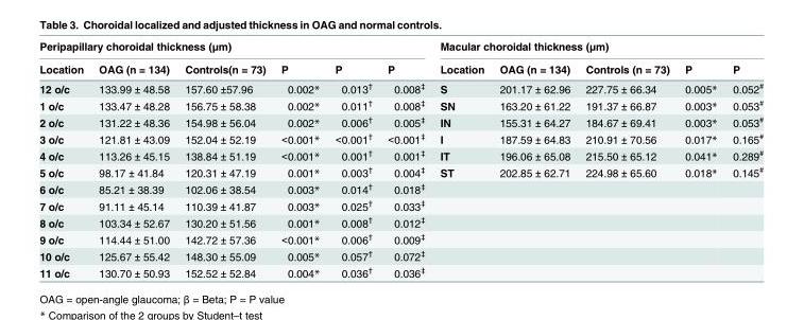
<table><thead><tr><td colspan="6">Peripapillary choroidal thickness (μm)</td><td colspan="5">Macular choroidal thickness (μm)</td></tr><tr><td>Location</td><td>OAG (n = 134)</td><td>Controls(n = 73)</td><td>P</td><td>P</td><td>P</td><td>Location</td><td>OAG (n = 134)</td><td>Controls (n = 73)</td><td>P</td><td>P</td></tr></thead><tbody><tr><td>12 o/c</td><td>133.99 ± 48.58</td><td>157.60 ±57.96</td><td>0.002*</td><td>0.013<sup>†</sup></td><td>0.008<sup>‡</sup></td><td>S</td><td>201.17 ± 62.96</td><td>227.75 ± 66.34</td><td>0.005*</td><td>0.052<sup>#</sup></td></tr><tr><td>1 o/c</td><td>133.47 ± 48.28</td><td>156.75 ± 58.38</td><td>0.002*</td><td>0.011<sup>†</sup></td><td>0.008<sup>‡</sup></td><td>SN</td><td>163.20 ± 61.22</td><td>191.37 ± 66.87</td><td>0.003*</td><td>0.053<sup>#</sup></td></tr><tr><td>2 o/c</td><td>131.22 ± 48.36</td><td>154.98 ± 56.04</td><td>0.002*</td><td>0.006<sup>†</sup></td><td>0.005<sup>‡</sup></td><td>IN</td><td>155.31 ± 64.27</td><td>184.67 ± 69.41</td><td>0.003*</td><td>0.053<sup>#</sup></td></tr><tr><td>3 o/c</td><td>121.81 ± 43.09</td><td>152.04 ± 52.19</td><td>&lt;0.001*</td><td>&lt;0.001<sup>†</sup></td><td>&lt;0.001<sup>‡</sup></td><td>I</td><td>187.59 ± 64.83</td><td>210.91 ± 70.56</td><td>0.017*</td><td>0.165<sup>#</sup></td></tr><tr><td>4 o/c</td><td>113.26 ± 45.15</td><td>138.84 ± 51.19</td><td>&lt;0.001*</td><td>0.001<sup>†</sup></td><td>0.001<sup>‡</sup></td><td>IT</td><td>196.06 ± 65.08</td><td>215.50 ± 65.12</td><td>0.041*</td><td>0.289<sup>#</sup></td></tr><tr><td>5 o/c</td><td>98.17 ± 41.84</td><td>120.31 ± 47.19</td><td>0.001*</td><td>0.003<sup>†</sup></td><td>0.004<sup>‡</sup></td><td>ST</td><td>202.85 ± 62.71</td><td>224.98 ± 65.60</td><td>0.018*</td><td>0.145<sup>#</sup></td></tr><tr><td>6 o/c</td><td>85.21 ± 38.39</td><td>102.06 ± 38.54</td><td>0.003*</td><td>0.014<sup>†</sup></td><td>0.018<sup>‡</sup></td><td></td><td></td><td></td><td></td><td></td></tr><tr><td>7 o/c</td><td>91.11 ± 45.14</td><td>110.39 ± 41.87</td><td>0.003*</td><td>0.025<sup>†</sup></td><td>0.033<sup>‡</sup></td><td></td><td></td><td></td><td></td><td></td></tr><tr><td>8 o/c</td><td>103.34 ± 52.67</td><td>130.20 ± 51.56</td><td>0.001*</td><td>0.008<sup>†</sup></td><td>0.012<sup>‡</sup></td><td></td><td></td><td></td><td></td><td></td></tr><tr><td>9 o/c</td><td>114.44 ± 51.00</td><td>142.72 ± 57.36</td><td>&lt;0.001*</td><td>0.006<sup>†</sup></td><td>0.009<sup>‡</sup></td><td></td><td></td><td></td><td></td><td></td></tr><tr><td>10 o/c</td><td>125.67 ± 55.42</td><td>148.30 ± 55.09</td><td>0.005*</td><td>0.057<sup>†</sup></td><td>0.072<sup>‡</sup></td><td></td><td></td><td></td><td></td><td></td></tr><tr><td>11 o/c</td><td>130.70 ± 50.93</td><td>152.52 ± 52.84</td><td>0.004*</td><td>0.036<sup>†</sup></td><td>0.036<sup>‡</sup></td><td></td><td></td><td></td><td></td><td></td></tr></tbody></table>